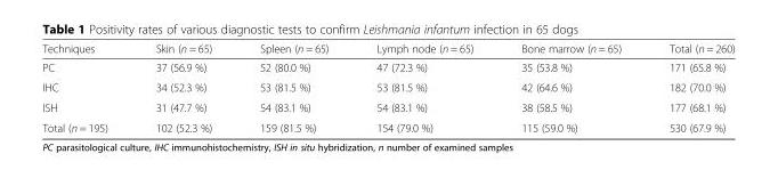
<table><thead><tr><td>Techniques</td><td>Skin (n = 65)</td><td>Spleen (n = 65)</td><td>Lymph node (n = 65)</td><td>Bone marrow (n = 65)</td><td>Total (n = 260)</td></tr></thead><tbody><tr><td>PC</td><td>37 (56.9 %)</td><td>52 (80.0 %)</td><td>47 (72.3 %)</td><td>35 (53.8 %)</td><td>171 (65.8 %)</td></tr><tr><td>IHC</td><td>34 (52.3 %)</td><td>53 (81.5 %)</td><td>53 (81.5 %)</td><td>42 (64.6 %)</td><td>182 (70.0 %)</td></tr><tr><td>ISH</td><td>31 (47.7 %)</td><td>54 (83.1 %)</td><td>54 (83.1 %)</td><td>38 (58.5 %)</td><td>177 (68.1 %)</td></tr><tr><td>Total (n = 195)</td><td>102 (52.3 %)</td><td>159 (81.5 %)</td><td>154 (79.0 %)</td><td>115 (59.0 %)</td><td>530 (67.9 %)</td></tr></tbody></table>